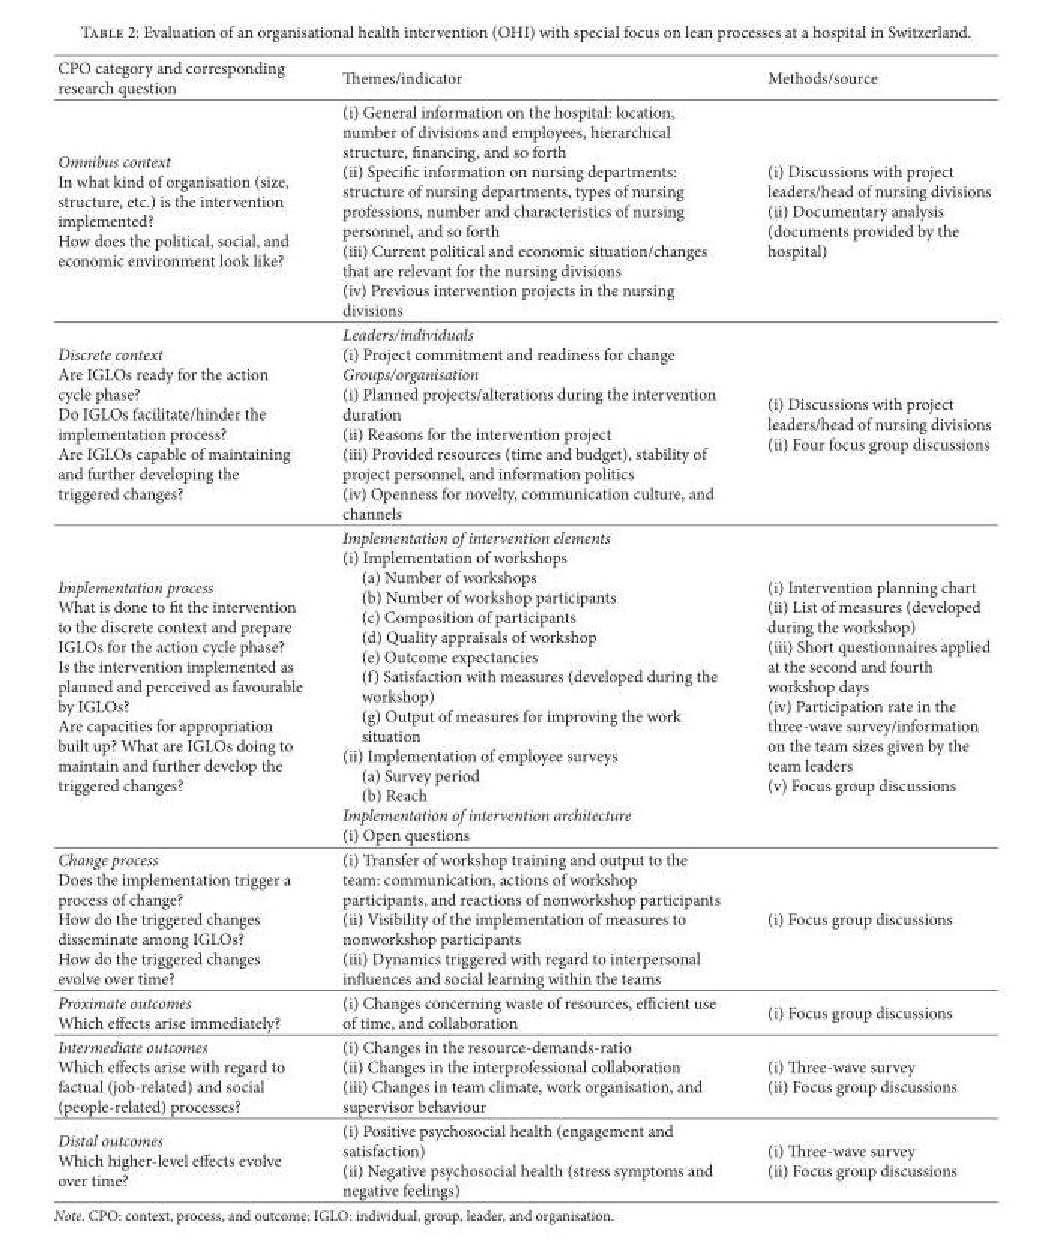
<table><thead><tr><td>CPO category and corresponding research question</td><td>Themes/indicator</td><td>Methods/source</td></tr></thead><tbody><tr><td>Omnibus context In what kind of organisation (size, structure, etc.) is the intervention implemented? How does the political, social, and economic environment look like?</td><td>(i) General information on the hospital: location, number of divisions and employees, hierarchical structure, financing, and so forth (ii) Specific information on nursing departments: structure of nursing departments, types of nursing professions, number and characteristics of nursing personnel, and so forth (iii) Current political and economic situation/changes that are relevant for the nursing divisions (iv) Previous intervention projects in the nursing divisions</td><td>(i) Discussions with project leaders/head of nursing divisions (ii) Documentary analysis (documents provided by the hospital)</td></tr><tr><td>Discrete context Are IGLOs ready for the action cycle phase? Do IGLOs facilitate/hinder the implementation process? Are IGLOs capable of maintaining and further developing the triggered changes?</td><td>Leaders/individuals (i) Project commitment and readiness for change Groups/organisation (i) Planned projects/alterations during the intervention duration (ii) Reasons for the intervention project (iii) Provided resources (time and budget), stability of project personnel, and information politics (iv) Openness for novelty, communication culture, and channels</td><td>(i) Discussions with project leaders/head of nursing divisions (ii) Four focus group discussions</td></tr><tr><td>Implementation process What is done to fit the intervention to the discrete context and prepare IGLOs for the action cycle phase? Is the intervention implemented as planned and perceived as favourable by IGLOs? Are capacities for appropriation built up? What are IGLOs doing to maintain and further develop the triggered changes?</td><td>Implementation of intervention elements (i) Implementation of workshops (a) Number of workshops (b) Number of workshop participants (c) Composition of participants (d) Quality appraisals of workshop (e) Outcome expectancies (f) Satisfaction with measures (developed during the workshop) (g) Output of measures for improving the work situation (ii) Implementation of employee surveys (a) Survey period (b) Reach Implementation of intervention architecture (i) Open questions</td><td>(i) Intervention planning chart (ii) List of measures (developed during the workshop) (iii) Short questionnaires applied at the second and fourth workshop days (iv) Participation rate in the three-wave survey/information on the team sizes given by the team leaders (v) Focus group discussions</td></tr><tr><td>Change process Does the implementation trigger a process of change? How do the triggered changes disseminate among IGLOs? How do the triggered changes evolve over time?</td><td>(i) Transfer of workshop training and output to the team: communication, actions of workshop participants, and reactions of nonworkshop participants (ii) Visibility of the implementation of measures to nonworkshop participants (iii) Dynamics triggered with regard to interpersonal influences and social learning within the teams</td><td>(i) Focus group discussions</td></tr><tr><td>Proximate outcomes Which effects arise immediately?</td><td>(i) Changes concerning waste of resources, efficient use of time, and collaboration</td><td>(i) Focus group discussions</td></tr><tr><td>Intermediate outcomes Which effects arise with regard to factual (job-related) and social (people-related) processes?</td><td>(i) Changes in the resource-demands-ratio (ii) Changes in the interprofessional collaboration (iii) Changes in team climate, work organisation, and supervisor behaviour</td><td>(i) Three-wave survey (ii) Focus group discussions</td></tr><tr><td>Distal outcomes Which higher-level effects evolve over time?</td><td>(i) Positive psychosocial health (engagement and satisfaction) (ii) Negative psychosocial health (stress symptoms and negative feelings)</td><td>(i) Three-wave survey (ii) Focus group discussions</td></tr></tbody></table>